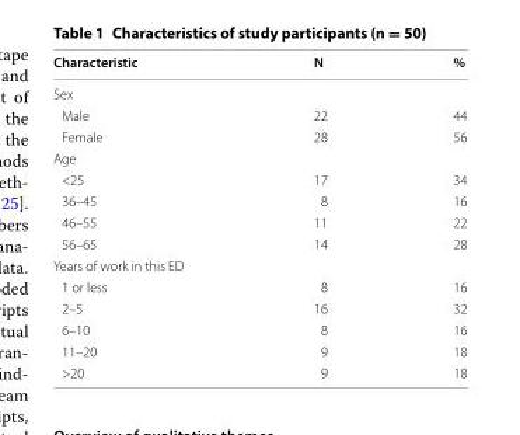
<table><thead><tr><td>Characteristic</td><td>N</td><td>%</td></tr></thead><tbody><tr><td colspan="3">Sex</td></tr><tr><td>Male</td><td>22</td><td>44</td></tr><tr><td>Female</td><td>28</td><td>56</td></tr><tr><td colspan="3">Age</td></tr><tr><td>&lt;25</td><td>17</td><td>34</td></tr><tr><td>36–45</td><td>8</td><td>16</td></tr><tr><td>46–55</td><td>11</td><td>22</td></tr><tr><td>56–65</td><td>14</td><td>28</td></tr><tr><td colspan="3">Years of work in this ED</td></tr><tr><td>1 or less</td><td>8</td><td>16</td></tr><tr><td>2–5</td><td>16</td><td>32</td></tr><tr><td>6–10</td><td>8</td><td>16</td></tr><tr><td>11–20</td><td>9</td><td>18</td></tr><tr><td>&gt;20</td><td>9</td><td>18</td></tr></tbody></table>